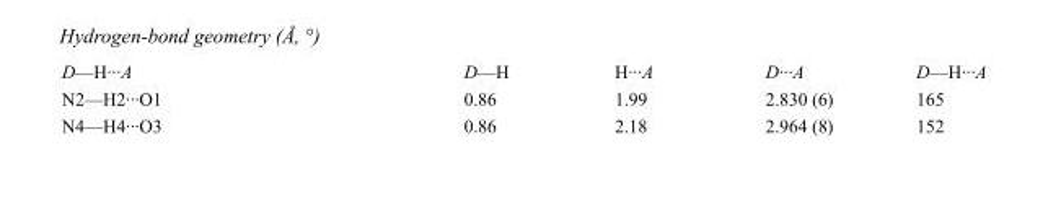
<table><tbody><tr><td>D—H···A</td><td>D—H</td><td>H···A</td><td>D···A</td><td>D—H···A</td></tr><tr><td>N2—H2···O1</td><td>0.86</td><td>1.99</td><td>2.830 (6)</td><td>165</td></tr><tr><td>N4—H4···O3</td><td>0.86</td><td>2.18</td><td>2.964 (8)</td><td>152</td></tr></tbody></table>